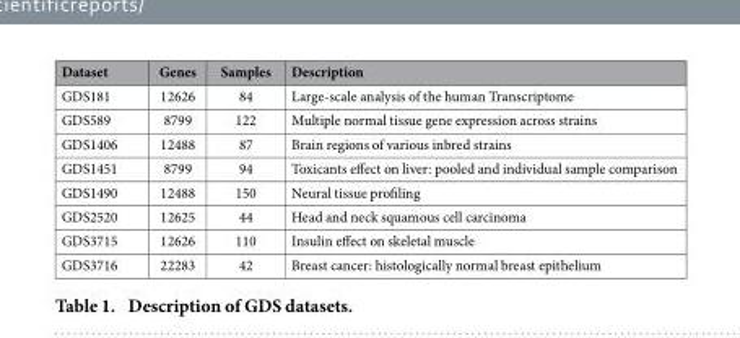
<table><thead><tr><td>Dataset</td><td>Genes</td><td>Samples</td><td>Description</td></tr></thead><tbody><tr><td>GDS181</td><td>12626</td><td>84</td><td>Large-scale analysis of the human Transcriptome</td></tr><tr><td>GDS589</td><td>8799</td><td>122</td><td>Multiple normal tissue gene expression across strains</td></tr><tr><td>GDS1406</td><td>12488</td><td>87</td><td>Brain regions of various inbred strains</td></tr><tr><td>GDS1451</td><td>8799</td><td>94</td><td>Toxicants effect on liver: pooled and individual sample comparison</td></tr><tr><td>GDS1490</td><td>12488</td><td>150</td><td>Neural tissue profiling</td></tr><tr><td>GDS2520</td><td>12625</td><td>44</td><td>Head and neck squamous cell carcinoma</td></tr><tr><td>GDS3715</td><td>12626</td><td>110</td><td>Insulin effect on skeletal muscle</td></tr><tr><td>GDS3716</td><td>22283</td><td>42</td><td>Breast cancer: histologically normal breast epithelium</td></tr></tbody></table>